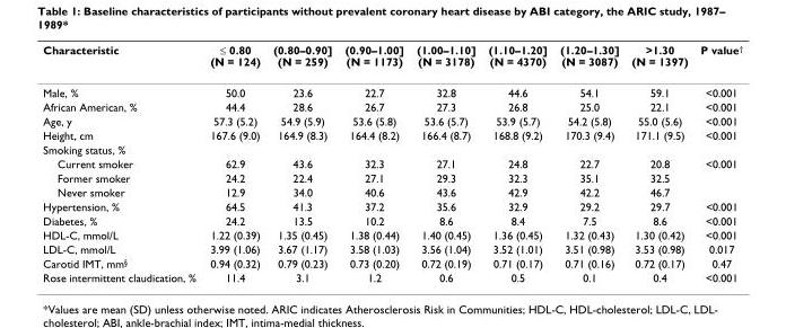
<table><thead><tr><td>Characteristic</td><td>≤ 0.80 (N = 124)</td><td>(0.80–0.90] (N = 259)</td><td>(0.90–1.00] (N = 1173)</td><td>(1.00–1.10] (N = 3178)</td><td>(1.10–1.20] (N = 4370)</td><td>(1.20–1.30] (N = 3087)</td><td>&gt;1.30 (N = 1397)</td><td>P value†</td></tr></thead><tbody><tr><td>Male, %</td><td>50.0</td><td>23.6</td><td>22.7</td><td>32.8</td><td>44.6</td><td>54.1</td><td>59.1</td><td>&lt;0.001</td></tr><tr><td>African American, %</td><td>44.4</td><td>28.6</td><td>26.7</td><td>27.3</td><td>26.8</td><td>25.0</td><td>22.1</td><td>&lt;0.001</td></tr><tr><td>Age, y</td><td>57.3 (5.2)</td><td>54.9 (5.9)</td><td>53.6 (5.8)</td><td>53.6 (5.7)</td><td>53.9 (5.7)</td><td>54.2 (5.8)</td><td>55.0 (5.6)</td><td>&lt;0.001</td></tr><tr><td>Height, cm</td><td>167.6 (9.0)</td><td>164.9 (8.3)</td><td>164.4 (8.2)</td><td>166.4 (8.7)</td><td>168.8 (9.2)</td><td>170.3 (9.4)</td><td>171.1 (9.5)</td><td>&lt;0.001</td></tr><tr><td colspan="9">Smoking status, %</td></tr><tr><td>Current smoker</td><td>62.9</td><td>43.6</td><td>32.3</td><td>27.1</td><td>24.8</td><td>22.7</td><td>20.8</td><td>&lt;0.001</td></tr><tr><td>Former smoker</td><td>24.2</td><td>22.4</td><td>27.1</td><td>29.3</td><td>32.3</td><td>35.1</td><td>32.5</td><td></td></tr><tr><td>Never smoker</td><td>12.9</td><td>34.0</td><td>40.6</td><td>43.6</td><td>42.9</td><td>42.2</td><td>46.7</td><td></td></tr><tr><td>Hypertension, %</td><td>64.5</td><td>41.3</td><td>37.2</td><td>35.6</td><td>32.9</td><td>29.2</td><td>29.7</td><td>&lt;0.001</td></tr><tr><td>Diabetes, %</td><td>24.2</td><td>13.5</td><td>10.2</td><td>8.6</td><td>8.4</td><td>7.5</td><td>8.6</td><td>&lt;0.001</td></tr><tr><td>HDL-C, mmol/L</td><td>1.22 (0.39)</td><td>1.35 (0.45)</td><td>1.38 (0.44)</td><td>1.40 (0.45)</td><td>1.36 (0.45)</td><td>1.32 (0.43)</td><td>1.30 (0.42)</td><td>&lt;0.001</td></tr><tr><td>LDL-C, mmol/L</td><td>3.99 (1.06)</td><td>3.67 (1.17)</td><td>3.58 (1.03)</td><td>3.56 (1.04)</td><td>3.52 (1.01)</td><td>3.51 (0.98)</td><td>3.53 (0.98)</td><td>0.017</td></tr><tr><td>Carotid IMT, mm§</td><td>0.94 (0.32)</td><td>0.79 (0.23)</td><td>0.73 (0.20)</td><td>0.72 (0.19)</td><td>0.71 (0.17)</td><td>0.71 (0.16)</td><td>0.72 (0.17)</td><td>0.47</td></tr><tr><td>Rose intermittent claudication, %</td><td>11.4</td><td>3.1</td><td>1.2</td><td>0.6</td><td>0.5</td><td>0.1</td><td>0.4</td><td>&lt;0.001</td></tr></tbody></table>